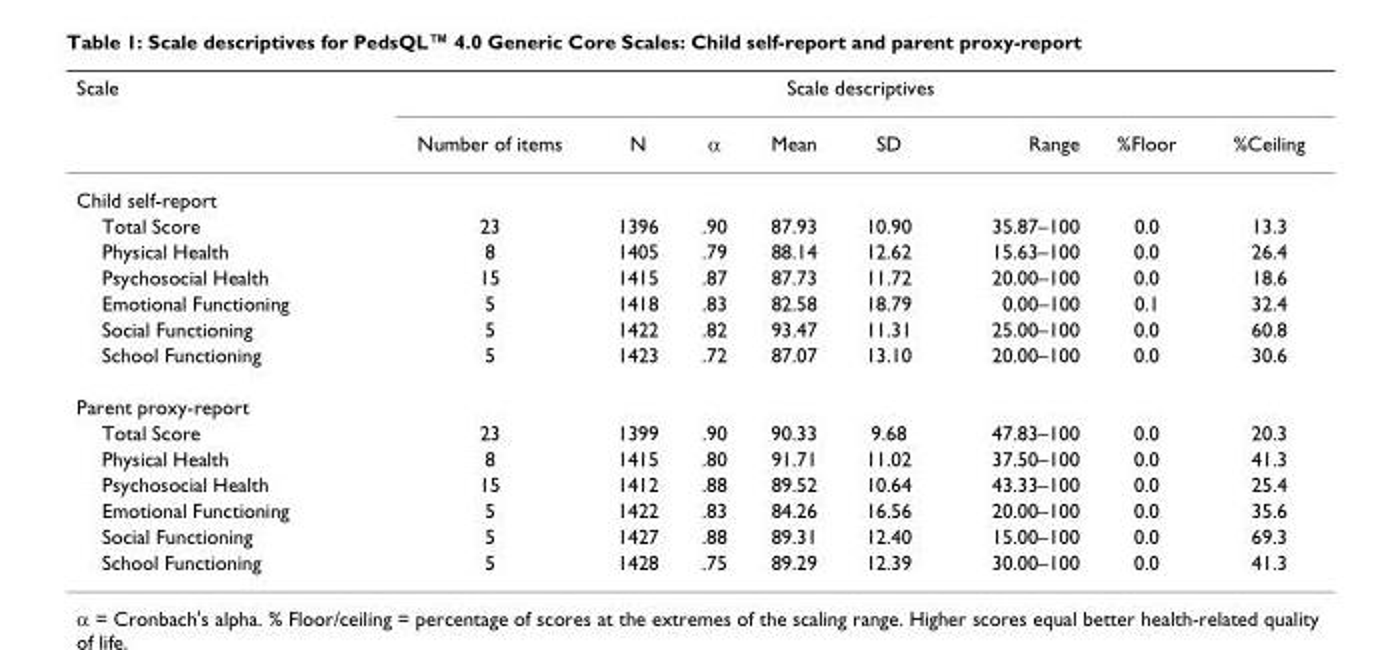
<table><thead><tr><td rowspan="2">Scale</td><td colspan="8">Scale descriptives</td></tr><tr><td>Number of items</td><td>N</td><td>α</td><td>Mean</td><td>SD</td><td>Range</td><td>%Floor</td><td>%Ceiling</td></tr></thead><tbody><tr><td colspan="9">Child self-report</td></tr><tr><td>Total Score</td><td>23</td><td>1396</td><td>.90</td><td>87.93</td><td>10.90</td><td>35.87–100</td><td>0.0</td><td>13.3</td></tr><tr><td>Physical Health</td><td>8</td><td>1405</td><td>.79</td><td>88.14</td><td>12.62</td><td>15.63–100</td><td>0.0</td><td>26.4</td></tr><tr><td>Psychosocial Health</td><td>15</td><td>1415</td><td>.87</td><td>87.73</td><td>11.72</td><td>20.00–100</td><td>0.0</td><td>18.6</td></tr><tr><td>Emotional Functioning</td><td>5</td><td>1418</td><td>.83</td><td>82.58</td><td>18.79</td><td>0.00–100</td><td>0.1</td><td>32.4</td></tr><tr><td>Social Functioning</td><td>5</td><td>1422</td><td>.82</td><td>93.47</td><td>11.31</td><td>25.00–100</td><td>0.0</td><td>60.8</td></tr><tr><td>School Functioning</td><td>5</td><td>1423</td><td>.72</td><td>87.07</td><td>13.10</td><td>20.00–100</td><td>0.0</td><td>30.6</td></tr><tr><td colspan="9">Parent proxy-report</td></tr><tr><td>Total Score</td><td>23</td><td>1399</td><td>.90</td><td>90.33</td><td>9.68</td><td>47.83–100</td><td>0.0</td><td>20.3</td></tr><tr><td>Physical Health</td><td>8</td><td>1415</td><td>.80</td><td>91.71</td><td>11.02</td><td>37.50–100</td><td>0.0</td><td>41.3</td></tr><tr><td>Psychosocial Health</td><td>15</td><td>1412</td><td>.88</td><td>89.52</td><td>10.64</td><td>43.33–100</td><td>0.0</td><td>25.4</td></tr><tr><td>Emotional Functioning</td><td>5</td><td>1422</td><td>.83</td><td>84.26</td><td>16.56</td><td>20.00–100</td><td>0.0</td><td>35.6</td></tr><tr><td>Social Functioning</td><td>5</td><td>1427</td><td>.88</td><td>89.31</td><td>12.40</td><td>15.00–100</td><td>0.0</td><td>69.3</td></tr><tr><td>School Functioning</td><td>5</td><td>1428</td><td>.75</td><td>89.29</td><td>12.39</td><td>30.00–100</td><td>0.0</td><td>41.3</td></tr></tbody></table>